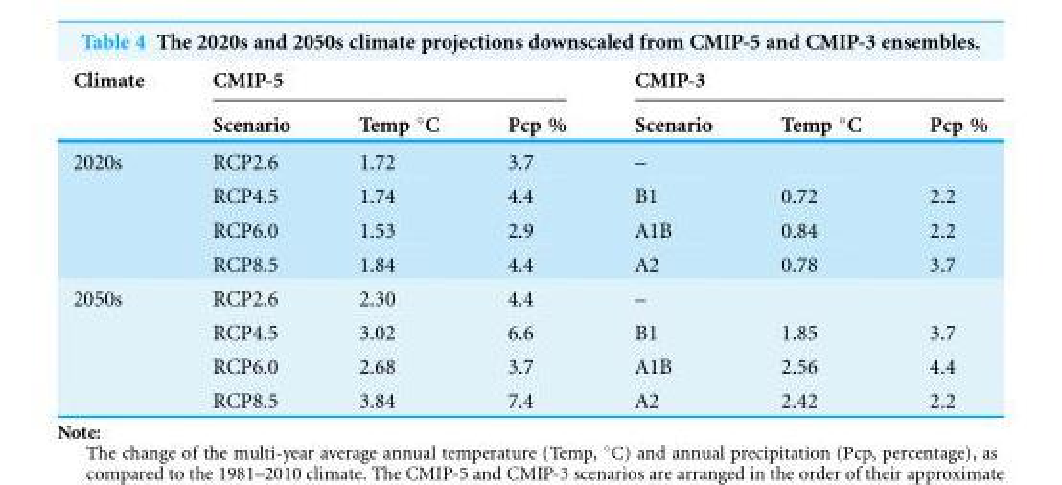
<table><thead><tr><td rowspan="2">Climate</td><td colspan="3">CMIP-5</td><td colspan="3">CMIP-3</td></tr><tr><td>Scenario</td><td>Temp °C</td><td>Pcp %</td><td>Scenario</td><td>Temp °C</td><td>Pcp %</td></tr></thead><tbody><tr><td rowspan="4">2020s</td><td>RCP2.6</td><td>1.72</td><td>3.7</td><td>–</td><td></td><td></td></tr><tr><td>RCP4.5</td><td>1.74</td><td>4.4</td><td>B1</td><td>0.72</td><td>2.2</td></tr><tr><td>RCP6.0</td><td>1.53</td><td>2.9</td><td>A1B</td><td>0.84</td><td>2.2</td></tr><tr><td>RCP8.5</td><td>1.84</td><td>4.4</td><td>A2</td><td>0.78</td><td>3.7</td></tr><tr><td rowspan="4">2050s</td><td>RCP2.6</td><td>2.30</td><td>4.4</td><td>–</td><td></td><td></td></tr><tr><td>RCP4.5</td><td>3.02</td><td>6.6</td><td>B1</td><td>1.85</td><td>3.7</td></tr><tr><td>RCP6.0</td><td>2.68</td><td>3.7</td><td>A1B</td><td>2.56</td><td>4.4</td></tr><tr><td>RCP8.5</td><td>3.84</td><td>7.4</td><td>A2</td><td>2.42</td><td>2.2</td></tr></tbody></table>